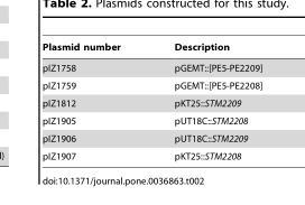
<table><thead><tr><td>Plasmid number</td><td>Description</td></tr></thead><tbody><tr><td>pIZ1758</td><td>pGEMT::[PE5-PE2209]</td></tr><tr><td>pIZ1759</td><td>pGEMT::[PE5-PE2208]</td></tr><tr><td>pIZ1812</td><td>pKT25::STM2209</td></tr><tr><td>pIZ1905</td><td>pUT18C::STM2208</td></tr><tr><td>pIZ1906</td><td>pUT18C::STM2209</td></tr><tr><td>pIZ1907</td><td>pKT25::STM2208</td></tr></tbody></table>